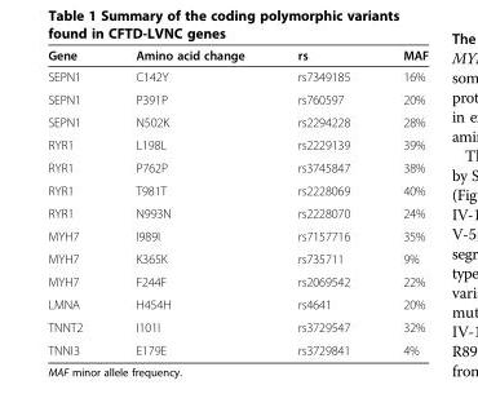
<table><thead><tr><td>Gene</td><td>Amino acid change</td><td>rs</td><td>MAF</td></tr></thead><tbody><tr><td>SEPN1</td><td>C142Y</td><td>rs7349185</td><td>16%</td></tr><tr><td>SEPN1</td><td>P391P</td><td>rs760597</td><td>20%</td></tr><tr><td>SEPN1</td><td>N502K</td><td>rs2294228</td><td>28%</td></tr><tr><td>RYR1</td><td>L198L</td><td>rs2229139</td><td>39%</td></tr><tr><td>RYR1</td><td>P762P</td><td>rs3745847</td><td>38%</td></tr><tr><td>RYR1</td><td>T981T</td><td>rs2228069</td><td>40%</td></tr><tr><td>RYR1</td><td>N993N</td><td>rs2228070</td><td>24%</td></tr><tr><td>MYH7</td><td>I989I</td><td>rs7157716</td><td>35%</td></tr><tr><td>MYH7</td><td>K365K</td><td>rs735711</td><td>9%</td></tr><tr><td>MYH7</td><td>F244F</td><td>rs2069542</td><td>22%</td></tr><tr><td>LMNA</td><td>H454H</td><td>rs4641</td><td>20%</td></tr><tr><td>TNNT2</td><td>I101I</td><td>rs3729547</td><td>32%</td></tr><tr><td>TNNI3</td><td>E179E</td><td>rs3729841</td><td>4%</td></tr></tbody></table>